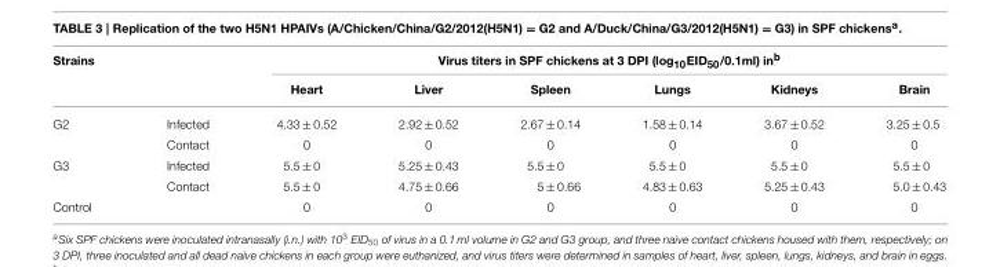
<table><thead><tr><td rowspan="2">Strains</td><td rowspan="2"></td><td colspan="6">Virus titers in SPF chickens at 3 DPI (log<sub>10</sub>EID<sub>50</sub>/0.1ml) in<sup>b</sup></td></tr><tr><td>Heart</td><td>Liver</td><td>Spleen</td><td>Lungs</td><td>Kidneys</td><td>Brain</td></tr></thead><tbody><tr><td rowspan="2">G2</td><td>Infected</td><td>4.33 ± 0.52</td><td>2.92 ± 0.52</td><td>2.67 ± 0.14</td><td>1.58 ± 0.14</td><td>3.67 ± 0.52</td><td>3.25 ± 0.5</td></tr><tr><td>Contact</td><td>0</td><td>0</td><td>0</td><td>0</td><td>0</td><td>0</td></tr><tr><td rowspan="2">G3</td><td>Infected</td><td>5.5 ± 0</td><td>5.25 ± 0.43</td><td>5.5 ± 0</td><td>5.5 ± 0</td><td>5.5 ± 0</td><td>5.5 ± 0</td></tr><tr><td>Contact</td><td>5.5 ± 0</td><td>4.75 ± 0.66</td><td>5 ± 0.66</td><td>4.83 ± 0.63</td><td>5.25 ± 0.43</td><td>5.0 ± 0.43</td></tr><tr><td>Control</td><td></td><td>0</td><td>0</td><td>0</td><td>0</td><td>0</td><td>0</td></tr></tbody></table>